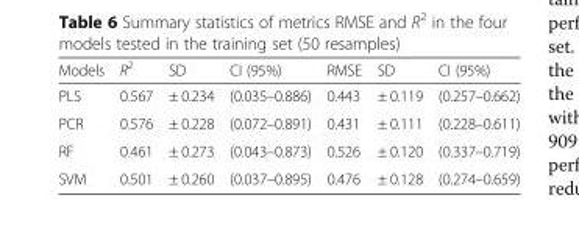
<table><thead><tr><td>Models</td><td>R<sup>2</sup></td><td>SD</td><td>CI (95%)</td><td>RMSE</td><td>SD</td><td>CI (95%)</td></tr></thead><tbody><tr><td>PLS</td><td>0.567</td><td>± 0.234</td><td>(0.035–0.886)</td><td>0.443</td><td>± 0.119</td><td>(0.257–0.662)</td></tr><tr><td>PCR</td><td>0.576</td><td>± 0.228</td><td>(0.072–0.891)</td><td>0.431</td><td>± 0.111</td><td>(0.228–0.611)</td></tr><tr><td>RF</td><td>0.461</td><td>± 0.273</td><td>(0.043–0.873)</td><td>0.526</td><td>± 0.120</td><td>(0.337–0.719)</td></tr><tr><td>SVM</td><td>0.501</td><td>± 0.260</td><td>(0.037–0.895)</td><td>0.476</td><td>± 0.128</td><td>(0.274–0.659)</td></tr></tbody></table>